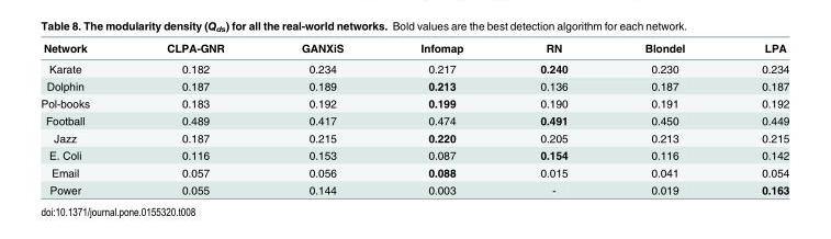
<table><thead><tr><td>Network</td><td>CLPA-GNR</td><td>GANXiS</td><td>Infomap</td><td>RN</td><td>Blondel</td><td>LPA</td></tr></thead><tbody><tr><td>Karate</td><td>0.182</td><td>0.234</td><td>0.217</td><td>0.240</td><td>0.230</td><td>0.234</td></tr><tr><td>Dolphin</td><td>0.187</td><td>0.189</td><td>0.213</td><td>0.136</td><td>0.187</td><td>0.187</td></tr><tr><td>Pol-books</td><td>0.183</td><td>0.192</td><td>0.199</td><td>0.190</td><td>0.191</td><td>0.192</td></tr><tr><td>Football</td><td>0.489</td><td>0.417</td><td>0.474</td><td>0.491</td><td>0.450</td><td>0.449</td></tr><tr><td>Jazz</td><td>0.187</td><td>0.215</td><td>0.220</td><td>0.205</td><td>0.213</td><td>0.215</td></tr><tr><td>E. Coli</td><td>0.116</td><td>0.153</td><td>0.087</td><td>0.154</td><td>0.116</td><td>0.142</td></tr><tr><td>Email</td><td>0.057</td><td>0.056</td><td>0.088</td><td>0.015</td><td>0.041</td><td>0.054</td></tr><tr><td>Power</td><td>0.055</td><td>0.144</td><td>0.003</td><td>-</td><td>0.019</td><td>0.163</td></tr></tbody></table>